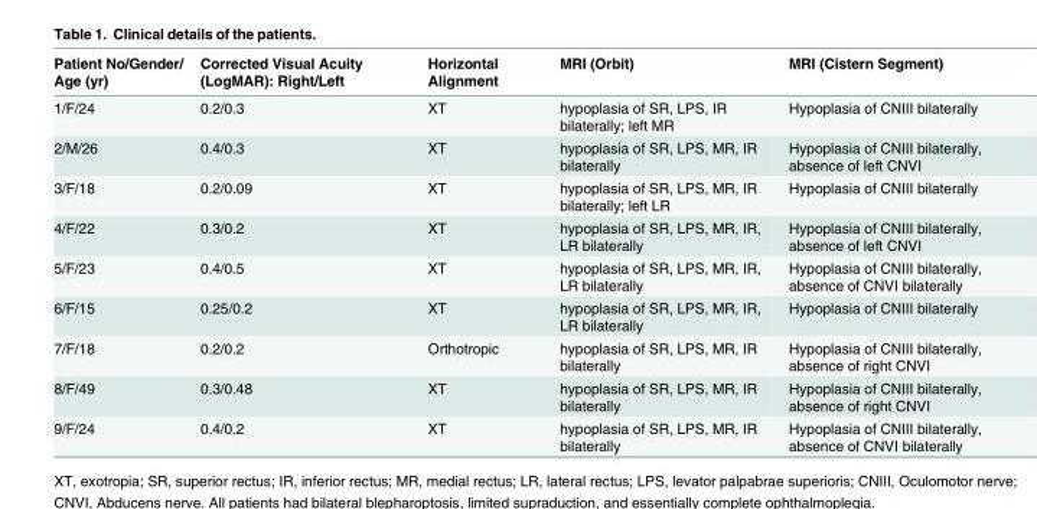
<table><thead><tr><td>Patient No/Gender/ Age (yr)</td><td>Corrected Visual Acuity (LogMAR): Right/Left</td><td>Horizontal Alignment</td><td>MRI (Orbit)</td><td>MRI (Cistern Segment)</td></tr></thead><tbody><tr><td>1/F/24</td><td>0.2/0.3</td><td>XT</td><td>hypoplasia of SR, LPS, IR bilaterally; left MR</td><td>Hypoplasia of CNIII bilaterally</td></tr><tr><td>2/M/26</td><td>0.4/0.3</td><td>XT</td><td>hypoplasia of SR, LPS, MR, IR bilaterally</td><td>Hypoplasia of CNIII bilaterally, absence of left CNVI</td></tr><tr><td>3/F/18</td><td>0.2/0.09</td><td>XT</td><td>hypoplasia of SR, LPS, MR, IR bilaterally; left LR</td><td>Hypoplasia of CNIII bilaterally</td></tr><tr><td>4/F/22</td><td>0.3/0.2</td><td>XT</td><td>hypoplasia of SR, LPS, MR, IR, LR bilaterally</td><td>Hypoplasia of CNIII bilaterally, absence of left CNVI</td></tr><tr><td>5/F/23</td><td>0.4/0.5</td><td>XT</td><td>hypoplasia of SR, LPS, MR, IR, LR bilaterally</td><td>Hypoplasia of CNIII bilaterally, absence of CNVI bilaterally</td></tr><tr><td>6/F/15</td><td>0.25/0.2</td><td>XT</td><td>hypoplasia of SR, LPS, MR, IR, LR bilaterally</td><td>Hypoplasia of CNIII bilaterally</td></tr><tr><td>7/F/18</td><td>0.2/0.2</td><td>Orthotropic</td><td>hypoplasia of SR, LPS, MR, IR bilaterally</td><td>Hypoplasia of CNIII bilaterally, absence of right CNVI</td></tr><tr><td>8/F/49</td><td>0.3/0.48</td><td>XT</td><td>hypoplasia of SR, LPS, MR, IR bilaterally</td><td>Hypoplasia of CNIII bilaterally, absence of right CNVI</td></tr><tr><td>9/F/24</td><td>0.4/0.2</td><td>XT</td><td>hypoplasia of SR, LPS, MR, IR bilaterally</td><td>Hypoplasia of CNIII bilaterally, absence of CNVI bilaterally</td></tr></tbody></table>